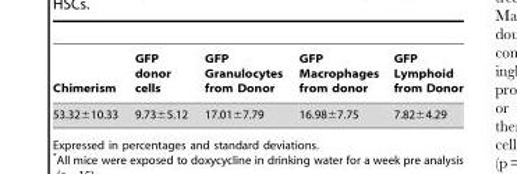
<table><thead><tr><td>Chimerism</td><td>GFP donor cells</td><td>GFP Granulocytes from Donor</td><td>GFP Macrophages from donor</td><td>GFP Lymphoid from Donor</td></tr></thead><tbody><tr><td>53.32±10.33</td><td>9.73±5.12</td><td>17.01±7.79</td><td>16.98±7.75</td><td>7.82±4.29</td></tr></tbody></table>